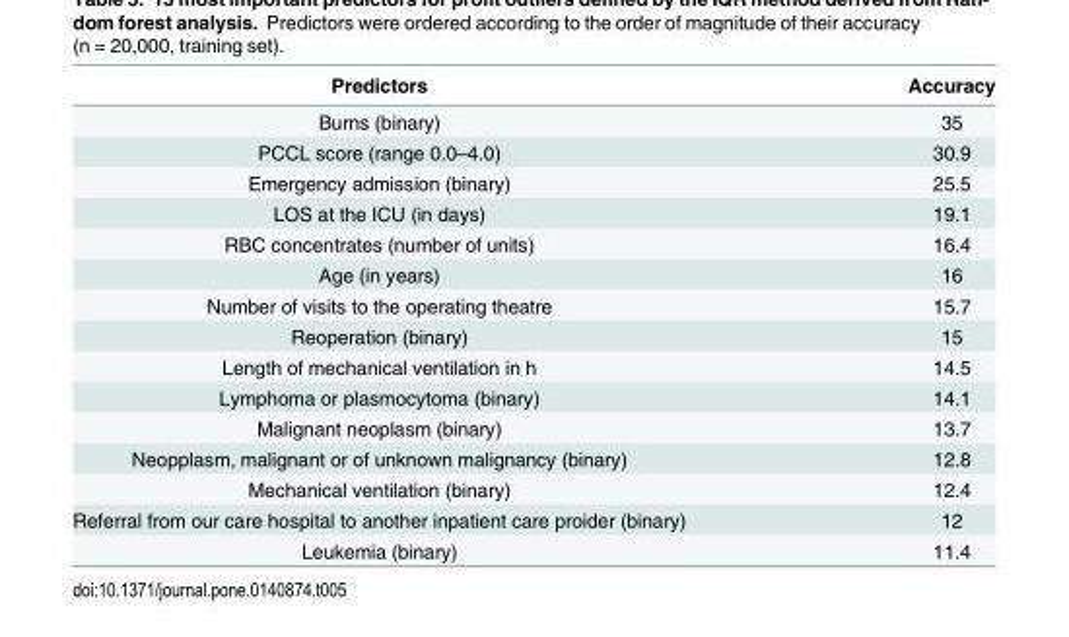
<table><thead><tr><td>Predictors</td><td>Accuracy</td></tr></thead><tbody><tr><td>Burns (binary)</td><td>35</td></tr><tr><td>PCCL score (range 0.0–4.0)</td><td>30.9</td></tr><tr><td>Emergency admission (binary)</td><td>25.5</td></tr><tr><td>LOS at the ICU (in days)</td><td>19.1</td></tr><tr><td>RBC concentrates (number of units)</td><td>16.4</td></tr><tr><td>Age (in years)</td><td>16</td></tr><tr><td>Number of visits to the operating theatre</td><td>15.7</td></tr><tr><td>Reoperation (binary)</td><td>15</td></tr><tr><td>Length of mechanical ventilation in h</td><td>14.5</td></tr><tr><td>Lymphoma or plasmocytoma (binary)</td><td>14.1</td></tr><tr><td>Malignant neoplasm (binary)</td><td>13.7</td></tr><tr><td>Neopplasm, malignant or of unknown malignancy (binary)</td><td>12.8</td></tr><tr><td>Mechanical ventilation (binary)</td><td>12.4</td></tr><tr><td>Referral from our care hospital to another inpatient care proider (binary)</td><td>12</td></tr><tr><td>Leukemia (binary)</td><td>11.4</td></tr></tbody></table>